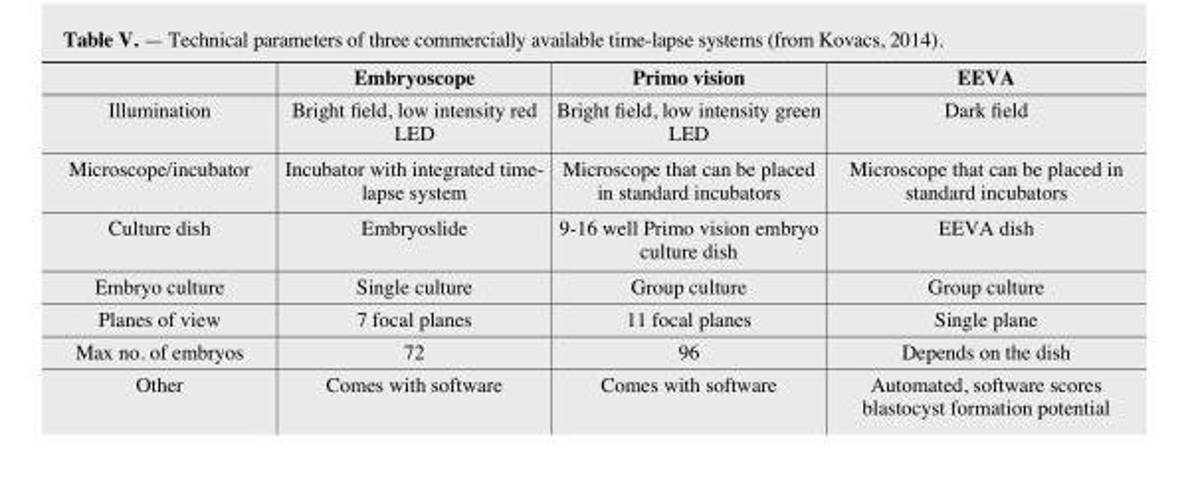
<table><thead><tr><td></td><td>Embryoscope</td><td>Primo vision</td><td>EEVA</td></tr></thead><tbody><tr><td>Illumination</td><td>Bright field, low intensity red LED</td><td>Bright field, low intensity green LED</td><td>Dark field</td></tr><tr><td>Microscope/incubator</td><td>Incubator with integrated time- lapse system</td><td>Microscope that can be placed in standard incubators</td><td>Microscope that can be placed in standard incubators</td></tr><tr><td>Culture dish</td><td>Embryoslide</td><td>9-16 well Primo vision embryo culture dish</td><td>EEVA dish</td></tr><tr><td>Embryo culture</td><td>Single culture</td><td>Group culture</td><td>Group culture</td></tr><tr><td>Planes of view</td><td>7 focal planes</td><td>11 focal planes</td><td>Single plane</td></tr><tr><td>Max no. of embryos</td><td>72</td><td>96</td><td>Depends on the dish</td></tr><tr><td>Other</td><td>Comes with software</td><td>Comes with software</td><td>Automated, software scores blastocyst formation potential</td></tr></tbody></table>